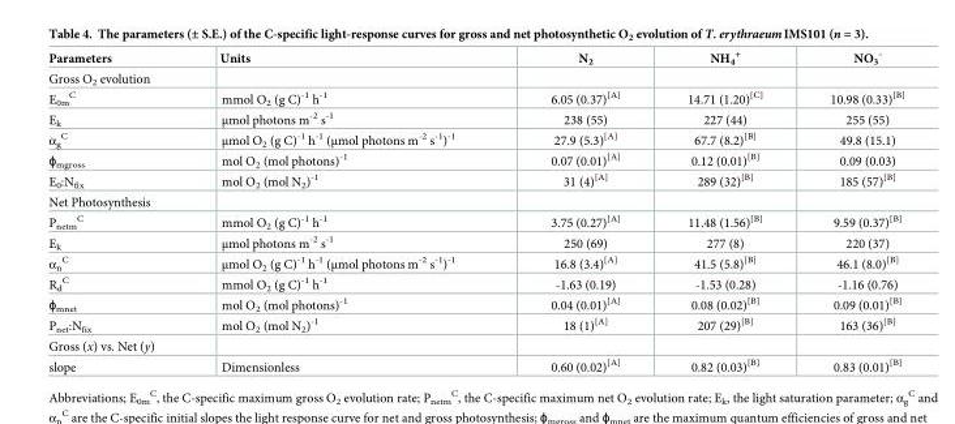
<table><thead><tr><td>Parameters</td><td>Units</td><td>N<sub>2</sub></td><td>NH<sub>4</sub> <sup>+</sup></td><td>NO<sub>3</sub> <sup>-</sup></td></tr></thead><tbody><tr><td colspan="5">Gross O<sub>2</sub> evolution</td></tr><tr><td>E<sub>0m</sub> <sup>C</sup></td><td>mmol O<sub>2</sub> (g C)<sup>-1</sup> h<sup>-1</sup></td><td>6.05 (0.37)<sup>[A]</sup></td><td>14.71 (1.20)<sup>[C]</sup></td><td>10.98 (0.33)<sup>[B]</sup></td></tr><tr><td>E<sub>k</sub></td><td>μmol photons m<sup>-2</sup> s<sup>-1</sup></td><td>238 (55)</td><td>227 (44)</td><td>255 (55)</td></tr><tr><td>α<sub>g</sub> <sup>C</sup></td><td>μmol O<sub>2</sub> (g C)<sup>-1</sup> h<sup>-1</sup> (μmol photons m<sup>-2</sup> s<sup>-1</sup>)<sup>-1</sup></td><td>27.9 (5.3)<sup>[A]</sup></td><td>67.7 (8.2)<sup>[B]</sup></td><td>49.8 (15.1)</td></tr><tr><td>ɸ<sub>mgross</sub></td><td>mol O<sub>2</sub> (mol photons)<sup>-1</sup></td><td>0.07 (0.01)<sup>[A]</sup></td><td>0.12 (0.01)<sup>[B]</sup></td><td>0.09 (0.03)</td></tr><tr><td>E<sub>0</sub>:N<sub>fix</sub></td><td>mol O<sub>2</sub> (mol N<sub>2</sub>)<sup>-1</sup></td><td>31 (4)<sup>[A]</sup></td><td>289 (32)<sup>[B]</sup></td><td>185 (57)<sup>[B]</sup></td></tr><tr><td colspan="5">Net Photosynthesis</td></tr><tr><td>P<sub>netm</sub> <sup>C</sup></td><td>mmol O<sub>2</sub> (g C)<sup>-1</sup> h<sup>-1</sup></td><td>3.75 (0.27)<sup>[A]</sup></td><td>11.48 (1.56)<sup>[B]</sup></td><td>9.59 (0.37)<sup>[B]</sup></td></tr><tr><td>E<sub>k</sub></td><td>μmol photons m<sup>-2</sup> s<sup>-1</sup></td><td>250 (69)</td><td>277 (8)</td><td>220 (37)</td></tr><tr><td>α<sub>n</sub> <sup>C</sup></td><td>μmol O<sub>2</sub> (g C)<sup>-1</sup> h<sup>-1</sup> (μmol photons m<sup>-2</sup> s<sup>-1</sup>)<sup>-1</sup></td><td>16.8 (3.4)<sup>[A]</sup></td><td>41.5 (5.8)<sup>[B]</sup></td><td>46.1 (8.0)<sup>[B]</sup></td></tr><tr><td>R<sub>d</sub> <sup>C</sup></td><td>mmol O<sub>2</sub> (g C)<sup>-1</sup> h<sup>-1</sup></td><td>-1.63 (0.19)</td><td>-1.53 (0.28)</td><td>-1.16 (0.76)</td></tr><tr><td>ɸ<sub>mnet</sub></td><td>mol O<sub>2</sub> (mol photons)<sup>-1</sup></td><td>0.04 (0.01)<sup>[A]</sup></td><td>0.08 (0.02)<sup>[B]</sup></td><td>0.09 (0.01)<sup>[B]</sup></td></tr><tr><td>P<sub>net</sub>:N<sub>fix</sub></td><td>mol O<sub>2</sub> (mol N<sub>2</sub>)<sup>-1</sup></td><td>18 (1)<sup>[A]</sup></td><td>207 (29)<sup>[B]</sup></td><td>163 (36)<sup>[B]</sup></td></tr><tr><td colspan="5">Gross (x) vs. Net (y)</td></tr><tr><td>slope</td><td>Dimensionless</td><td>0.60 (0.02)<sup>[A]</sup></td><td>0.82 (0.03)<sup>[B]</sup></td><td>0.83 (0.01)<sup>[B]</sup></td></tr></tbody></table>